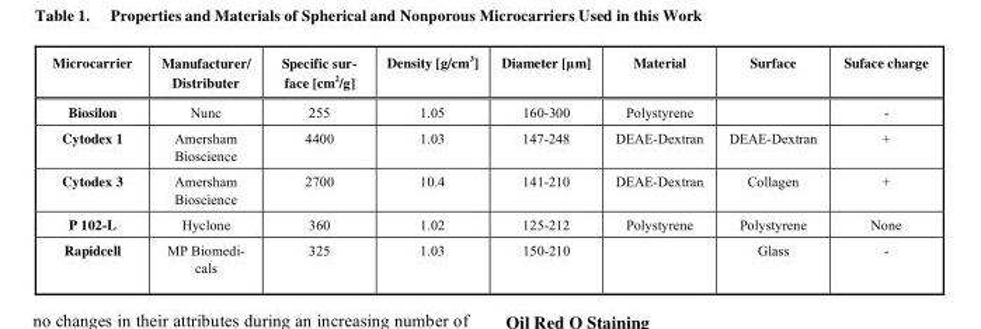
<table><thead><tr><td>Microcarrier</td><td>Manufacturer/ Distributer</td><td>Specific sur- face [cm2/g]</td><td>Density [g/cm<sup>3</sup>]</td><td>Diameter [µm]</td><td>Material</td><td>Surface</td><td>Suface charge</td></tr></thead><tbody><tr><td>Biosilon</td><td>Nunc</td><td>255</td><td>1.05</td><td>160-300</td><td>Polystyrene</td><td></td><td>-</td></tr><tr><td>Cytodex 1</td><td>Amersham Bioscience</td><td>4400</td><td>1.03</td><td>147-248</td><td>DEAE-Dextran</td><td>DEAE-Dextran</td><td>+</td></tr><tr><td>Cytodex 3</td><td>Amersham Bioscience</td><td>2700</td><td>10.4</td><td>141-210</td><td>DEAE-Dextran</td><td>Collagen</td><td>+</td></tr><tr><td>P 102-L</td><td>Hyclone</td><td>360</td><td>1.02</td><td>125-212</td><td>Polystyrene</td><td>Polystyrene</td><td>None</td></tr><tr><td>Rapidcell</td><td>MP Biomedi- cals</td><td>325</td><td>1.03</td><td>150-210</td><td></td><td>Glass</td><td>-</td></tr></tbody></table>